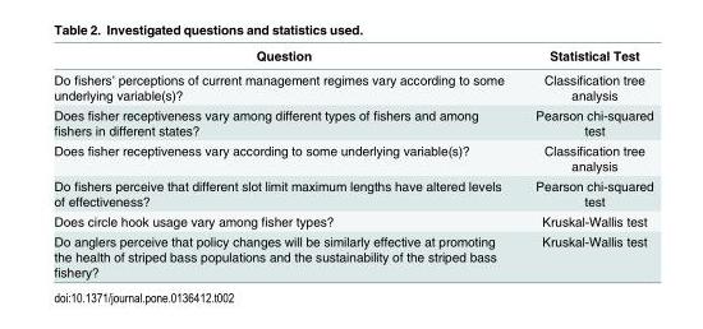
<table><thead><tr><td>Question</td><td>Statistical Test</td></tr></thead><tbody><tr><td>Do fishers’ perceptions of current management regimes vary according to some underlying variable(s)?</td><td>Classification tree analysis</td></tr><tr><td>Does fisher receptiveness vary among different types of fishers and among fishers in different states?</td><td>Pearson chi-squared test</td></tr><tr><td>Does fisher receptiveness vary according to some underlying variable(s)?</td><td>Classification tree analysis</td></tr><tr><td>Do fishers perceive that different slot limit maximum lengths have altered levels of effectiveness?</td><td>Pearson chi-squared test</td></tr><tr><td>Does circle hook usage vary among fisher types?</td><td>Kruskal-Wallis test</td></tr><tr><td>Do anglers perceive that policy changes will be similarly effective at promoting the health of striped bass populations and the sustainability of the striped bass fishery?</td><td>Kruskal-Wallis test</td></tr></tbody></table>